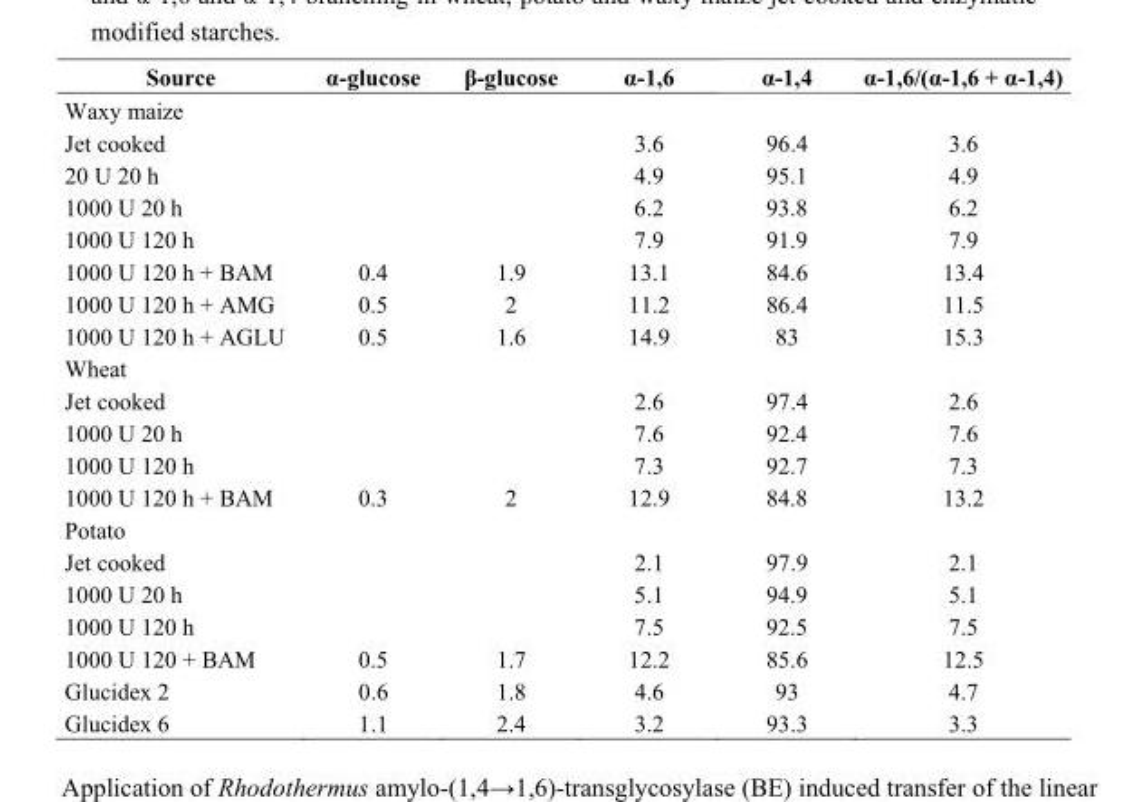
<table><thead><tr><td>Source</td><td>α-glucose</td><td>β-glucose</td><td>α-1,6</td><td>α-1,4</td><td>α-1,6/(α-1,6 + α-1,4)</td></tr></thead><tbody><tr><td colspan="6">Waxy maize</td></tr><tr><td>Jet cooked</td><td></td><td></td><td>3.6</td><td>96.4</td><td>3.6</td></tr><tr><td>20 U 20 h</td><td></td><td></td><td>4.9</td><td>95.1</td><td>4.9</td></tr><tr><td>1000 U 20 h</td><td></td><td></td><td>6.2</td><td>93.8</td><td>6.2</td></tr><tr><td>1000 U 120 h</td><td></td><td></td><td>7.9</td><td>91.9</td><td>7.9</td></tr><tr><td>1000 U 120 h + BAM</td><td>0.4</td><td>1.9</td><td>13.1</td><td>84.6</td><td>13.4</td></tr><tr><td>1000 U 120 h + AMG</td><td>0.5</td><td>2</td><td>11.2</td><td>86.4</td><td>11.5</td></tr><tr><td>1000 U 120 h + AGLU</td><td>0.5</td><td>1.6</td><td>14.9</td><td>83</td><td>15.3</td></tr><tr><td colspan="6">Wheat</td></tr><tr><td>Jet cooked</td><td></td><td></td><td>2.6</td><td>97.4</td><td>2.6</td></tr><tr><td>1000 U 20 h</td><td></td><td></td><td>7.6</td><td>92.4</td><td>7.6</td></tr><tr><td>1000 U 120 h</td><td></td><td></td><td>7.3</td><td>92.7</td><td>7.3</td></tr><tr><td>1000 U 120 h + BAM</td><td>0.3</td><td>2</td><td>12.9</td><td>84.8</td><td>13.2</td></tr><tr><td colspan="6">Potato</td></tr><tr><td>Jet cooked</td><td></td><td></td><td>2.1</td><td>97.9</td><td>2.1</td></tr><tr><td>1000 U 20 h</td><td></td><td></td><td>5.1</td><td>94.9</td><td>5.1</td></tr><tr><td>1000 U 120 h</td><td></td><td></td><td>7.5</td><td>92.5</td><td>7.5</td></tr><tr><td>1000 U 120 + BAM</td><td>0.5</td><td>1.7</td><td>12.2</td><td>85.6</td><td>12.5</td></tr><tr><td>Glucidex 2</td><td>0.6</td><td>1.8</td><td>4.6</td><td>93</td><td>4.7</td></tr><tr><td>Glucidex 6</td><td>1.1</td><td>2.4</td><td>3.2</td><td>93.3</td><td>3.3</td></tr></tbody></table>